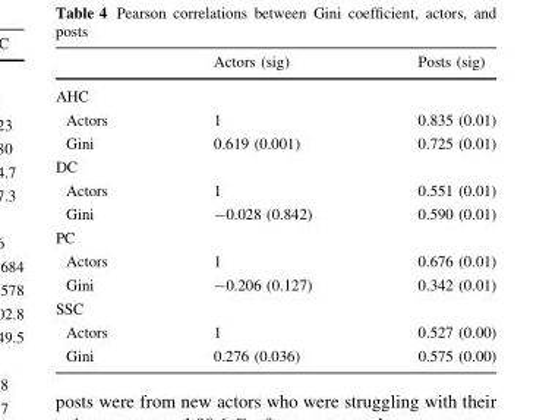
<table><thead><tr><td></td><td>Actors (sig)</td><td>Posts (sig)</td></tr></thead><tbody><tr><td colspan="3">AHC</td></tr><tr><td>Actors</td><td>1</td><td>0.835 (0.01)</td></tr><tr><td>Gini</td><td>0.619 (0.001)</td><td>0.725 (0.01)</td></tr><tr><td colspan="3">DC</td></tr><tr><td>Actors</td><td>1</td><td>0.551 (0.01)</td></tr><tr><td>Gini</td><td>-0.028 (0.842)</td><td>0.590 (0.01)</td></tr><tr><td colspan="3">PC</td></tr><tr><td>Actors</td><td>1</td><td>0.676 (0.01)</td></tr><tr><td>Gini</td><td>-0.206 (0.127)</td><td>0.342 (0.01)</td></tr><tr><td colspan="3">SSC</td></tr><tr><td>Actors</td><td>1</td><td>0.527 (0.00)</td></tr><tr><td>Gini</td><td>0.276 (0.036)</td><td>0.575 (0.00)</td></tr></tbody></table>